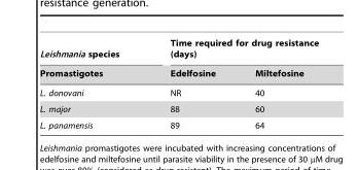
<table><thead><tr><td rowspan="2">Leishmania species Promastigotes</td><td colspan="2">Time required for drug resistance (days)</td></tr><tr><td>Edelfosine</td><td>Miltefosine</td></tr></thead><tbody><tr><td>L. donovani</td><td>NR</td><td>40</td></tr><tr><td>L. major</td><td>88</td><td>60</td></tr><tr><td>L. panamensis</td><td>89</td><td>64</td></tr></tbody></table>